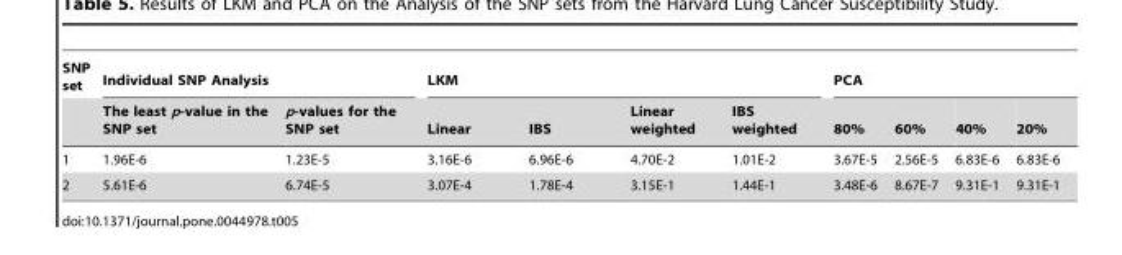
<table><thead><tr><td rowspan="2">SNP set</td><td colspan="2">Individual SNP Analysis</td><td colspan="4">LKM</td><td colspan="4">PCA</td></tr><tr><td>The least p-value in the SNP set</td><td>p-values for the SNP set</td><td>Linear</td><td>IBS</td><td>Linear weighted</td><td>IBS weighted</td><td>80%</td><td>60%</td><td>40%</td><td>20%</td></tr></thead><tbody><tr><td>1</td><td>1.96E-6</td><td>1.23E-5</td><td>3.16E-6</td><td>6.96E-6</td><td>4.70E-2</td><td>1.01E-2</td><td>3.67E-5</td><td>2.56E-5</td><td>6.83E-6</td><td>6.83E-6</td></tr><tr><td>2</td><td>5.61E-6</td><td>6.74E-5</td><td>3.07E-4</td><td>1.78E-4</td><td>3.15E-1</td><td>1.44E-1</td><td>3.48E-6</td><td>8.67E-7</td><td>9.31E-1</td><td>9.31E-1</td></tr></tbody></table>